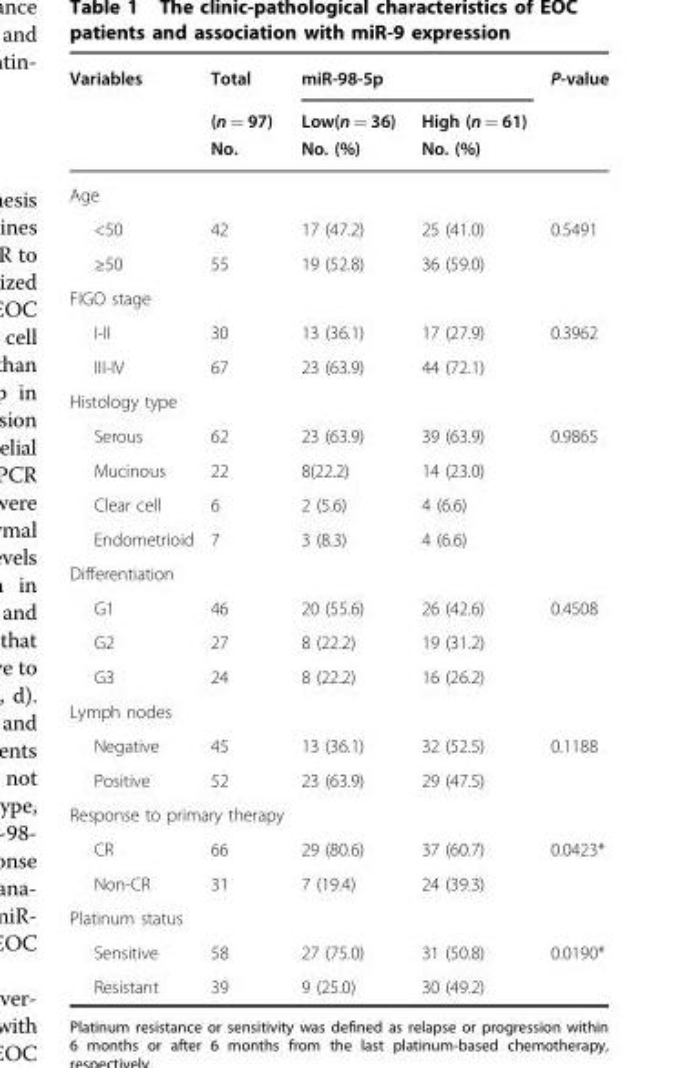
<table><thead><tr><td rowspan="2">Variables</td><td rowspan="2">Total (n = 97) No.</td><td colspan="2">miR-98-5p</td><td rowspan="2">P-value</td></tr><tr><td>Low(n = 36) No. (%)</td><td>High (n = 61) No. (%)</td></tr></thead><tbody><tr><td colspan="5">Age</td></tr><tr><td>&lt;50</td><td>42</td><td>17 (47.2)</td><td>25 (41.0)</td><td>0.5491</td></tr><tr><td>≥50</td><td>55</td><td>19 (52.8)</td><td>36 (59.0)</td><td></td></tr><tr><td colspan="5">FIGO stage</td></tr><tr><td>I-II</td><td>30</td><td>13 (36.1)</td><td>17 (27.9)</td><td>0.3962</td></tr><tr><td>III-IV</td><td>67</td><td>23 (63.9)</td><td>44 (72.1)</td><td></td></tr><tr><td colspan="5">Histology type</td></tr><tr><td>Serous</td><td>62</td><td>23 (63.9)</td><td>39 (63.9)</td><td>0.9865</td></tr><tr><td>Mucinous</td><td>22</td><td>8(22.2)</td><td>14 (23.0)</td><td></td></tr><tr><td>Clear cell</td><td>6</td><td>2 (5.6)</td><td>4 (6.6)</td><td></td></tr><tr><td>Endometrioid</td><td>7</td><td>3 (8.3)</td><td>4 (6.6)</td><td></td></tr><tr><td colspan="5">Differentiation</td></tr><tr><td>G1</td><td>46</td><td>20 (55.6)</td><td>26 (42.6)</td><td>0.4508</td></tr><tr><td>G2</td><td>27</td><td>8 (22.2)</td><td>19 (31.2)</td><td></td></tr><tr><td>G3</td><td>24</td><td>8 (22.2)</td><td>16 (26.2)</td><td></td></tr><tr><td colspan="5">Lymph nodes</td></tr><tr><td>Negative</td><td>45</td><td>13 (36.1)</td><td>32 (52.5)</td><td>0.1188</td></tr><tr><td>Positive</td><td>52</td><td>23 (63.9)</td><td>29 (47.5)</td><td></td></tr><tr><td colspan="5">Response to primary therapy</td></tr><tr><td>CR</td><td>66</td><td>29 (80.6)</td><td>37 (60.7)</td><td>0.0423*</td></tr><tr><td>Non-CR</td><td>31</td><td>7 (19.4)</td><td>24 (39.3)</td><td></td></tr><tr><td colspan="5">Platinum status</td></tr><tr><td>Sensitive</td><td>58</td><td>27 (75.0)</td><td>31 (50.8)</td><td>0.0190*</td></tr><tr><td>Resistant</td><td>39</td><td>9 (25.0)</td><td>30 (49.2)</td><td></td></tr></tbody></table>